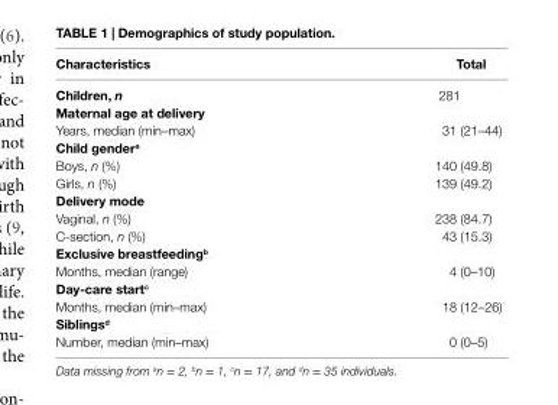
<table><thead><tr><td>characteristics</td><td>Total</td></tr></thead><tbody><tr><td>children, n</td><td>281</td></tr><tr><td colspan="2">Maternal age at delivery</td></tr><tr><td>Years, median (min–max)</td><td>31 (21–44)</td></tr><tr><td colspan="2">child gender<sup>a</sup></td></tr><tr><td>Boys, n (%)</td><td>140 (49.8)</td></tr><tr><td>Girls, n (%)</td><td>139 (49.2)</td></tr><tr><td colspan="2">Delivery mode</td></tr><tr><td>Vaginal, n (%)</td><td>238 (84.7)</td></tr><tr><td>C-section, n (%)</td><td>43 (15.3)</td></tr><tr><td colspan="2">exclusive breastfeeding<sup>b</sup></td></tr><tr><td>Months, median (range)</td><td>4 (0–10)</td></tr><tr><td colspan="2">Day-care start<sup>c</sup></td></tr><tr><td>Months, median (min–max)</td><td>18 (12–26)</td></tr><tr><td colspan="2">siblings<sup>d</sup></td></tr><tr><td>Number, median (min–max)</td><td>0 (0–5)</td></tr></tbody></table>